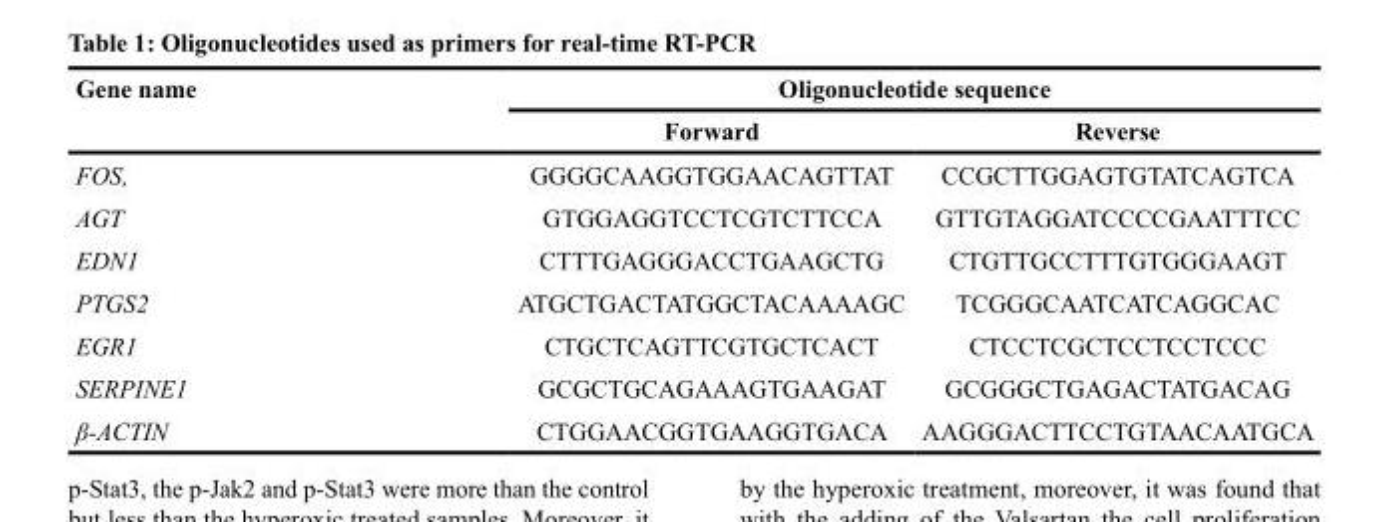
<table><thead><tr><td rowspan="2">Gene name</td><td colspan="2">Oligonucleotide sequence</td></tr><tr><td>Forward</td><td>Reverse</td></tr></thead><tbody><tr><td>FOS,</td><td>GGGGCAAGGTGGAACAGTTAT</td><td>CCGCTTGGAGTGTATCAGTCA</td></tr><tr><td>AGT</td><td>GTGGAGGTCCTCGTCTTCCA</td><td>GTTGTAGGATCCCCGAATTTCC</td></tr><tr><td>EDN1</td><td>CTTTGAGGGACCTGAAGCTG</td><td>CTGTTGCCTTTGTGGGAAGT</td></tr><tr><td>PTGS2</td><td>ATGCTGACTATGGCTACAAAAGC</td><td>TCGGGCAATCATCAGGCAC</td></tr><tr><td>EGR1</td><td>CTGCTCAGTTCGTGCTCACT</td><td>CTCCTCGCTCCTCCTCCC</td></tr><tr><td>SERPINE1</td><td>GCGCTGCAGAAAGTGAAGAT</td><td>GCGGGCTGAGACTATGACAG</td></tr><tr><td>β-ACTIN</td><td>CTGGAACGGTGAAGGTGACA</td><td>AAGGGACTTCCTGTAACAATGCA</td></tr></tbody></table>